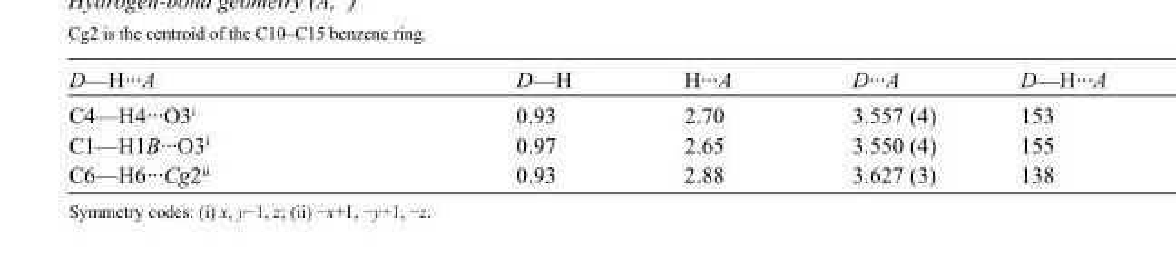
<table><tbody><tr><td>D—H···A</td><td>D—H</td><td>H···A</td><td>D···A</td><td>D—H···A</td></tr><tr><td>C4—H4···O3<sup>i</sup></td><td>0.93</td><td>2.70</td><td>3.557 (4)</td><td>153</td></tr><tr><td>C1—H1B···O3<sup>i</sup></td><td>0.97</td><td>2.65</td><td>3.550 (4)</td><td>155</td></tr><tr><td>C6—H6···Cg2<sup>ii</sup></td><td>0.93</td><td>2.88</td><td>3.627 (3)</td><td>138</td></tr></tbody></table>